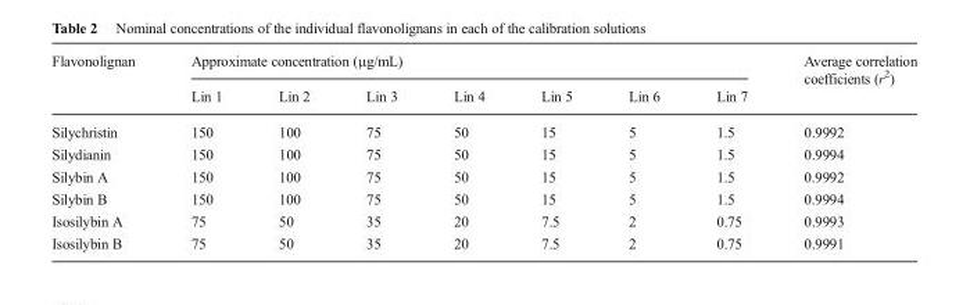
<table><thead><tr><td rowspan="2">Flavonolignan</td><td colspan="7">Approximate concentration (μg/mL)</td><td rowspan="2">Average correlation coefficients (r<sup>2</sup>)</td></tr><tr><td>Lin 1</td><td>Lin 2</td><td>Lin 3</td><td>Lin 4</td><td>Lin 5</td><td>Lin 6</td><td>Lin 7</td></tr></thead><tbody><tr><td>Silychristin</td><td>150</td><td>100</td><td>75</td><td>50</td><td>15</td><td>5</td><td>1.5</td><td>0.9992</td></tr><tr><td>Silydianin</td><td>150</td><td>100</td><td>75</td><td>50</td><td>15</td><td>5</td><td>1.5</td><td>0.9994</td></tr><tr><td>Silybin A</td><td>150</td><td>100</td><td>75</td><td>50</td><td>15</td><td>5</td><td>1.5</td><td>0.9992</td></tr><tr><td>Silybin B</td><td>150</td><td>100</td><td>75</td><td>50</td><td>15</td><td>5</td><td>1.5</td><td>0.9994</td></tr><tr><td>Isosilybin A</td><td>75</td><td>50</td><td>35</td><td>20</td><td>7.5</td><td>2</td><td>0.75</td><td>0.9993</td></tr><tr><td>Isosilybin B</td><td>75</td><td>50</td><td>35</td><td>20</td><td>7.5</td><td>2</td><td>0.75</td><td>0.9991</td></tr></tbody></table>